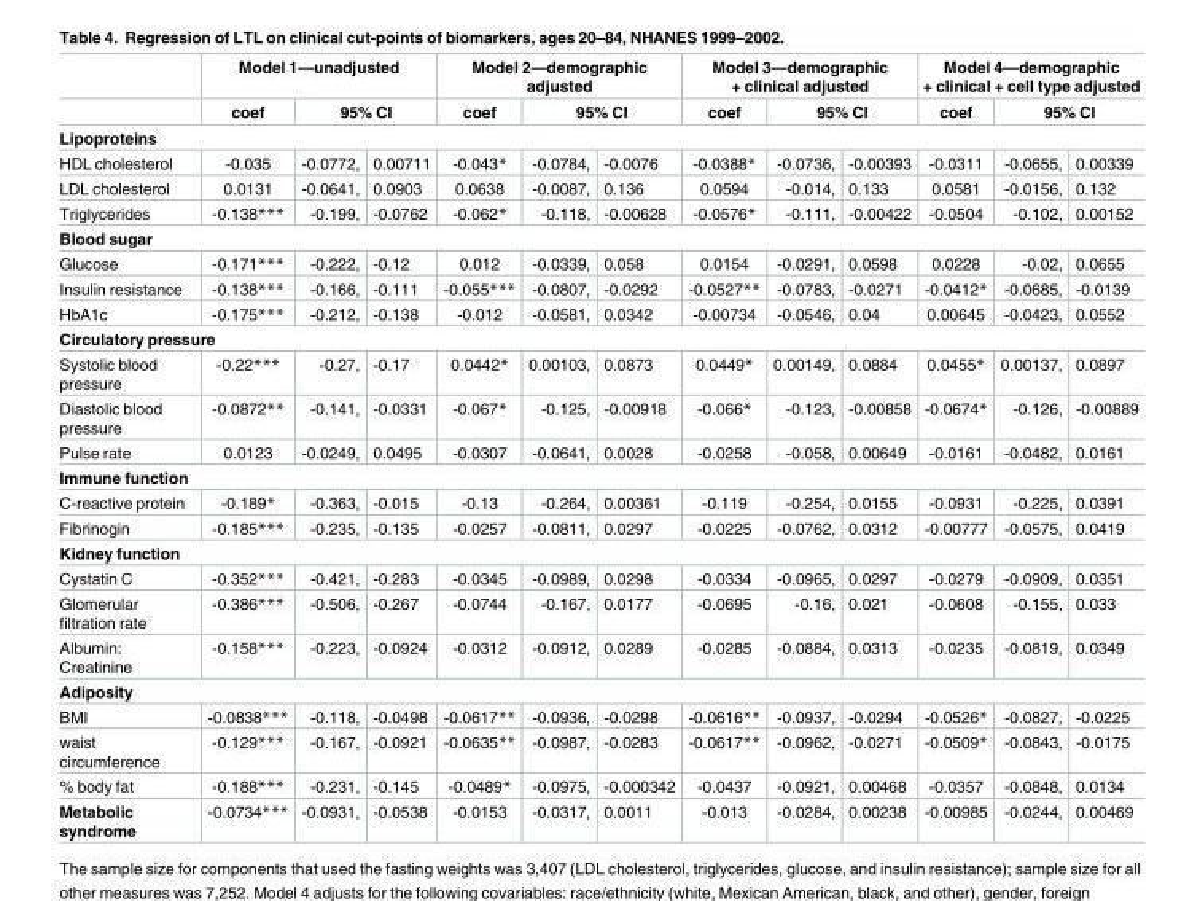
<table><thead><tr><td rowspan="2"></td><td colspan="3">Model 1—unadjusted</td><td colspan="3">Model 2—demographic adjusted</td><td colspan="3">Model 3—demographic + clinical adjusted</td><td colspan="3">Model 4—demographic + clinical + cell type adjusted</td></tr><tr><td>coef</td><td colspan="2">95% CI</td><td>coef</td><td colspan="2">95% CI</td><td>coef</td><td colspan="2">95% CI</td><td>coef</td><td colspan="2">95% CI</td></tr><tr><td colspan="13">Lipoproteins</td></tr><tr><td>HDL cholesterol</td><td>-0.035</td><td>-0.0772,</td><td>0.00711</td><td>-0.043*</td><td>-0.0784,</td><td>-0.0076</td><td>-0.0388*</td><td>-0.0736,</td><td>-0.00393</td><td>-0.0311</td><td>-0.0655,</td><td>0.00339</td></tr></thead><tbody><tr><td>LDL cholesterol</td><td>0.0131</td><td>-0.0641,</td><td>0.0903</td><td>0.0638</td><td>-0.0087,</td><td>0.136</td><td>0.0594</td><td>-0.014,</td><td>0.133</td><td>0.0581</td><td>-0.0156,</td><td>0.132</td></tr><tr><td>Triglycerides</td><td>-0.138***</td><td>-0.199,</td><td>-0.0762</td><td>-0.062*</td><td>-0.118,</td><td>-0.00628</td><td>-0.0576*</td><td>-0.111,</td><td>-0.00422</td><td>-0.0504</td><td>-0.102,</td><td>0.00152</td></tr><tr><td colspan="13">Blood sugar</td></tr><tr><td>Glucose</td><td>-0.171***</td><td>-0.222,</td><td>-0.12</td><td>0.012</td><td>-0.0339,</td><td>0.058</td><td>0.0154</td><td>-0.0291,</td><td>0.0598</td><td>0.0228</td><td>-0.02,</td><td>0.0655</td></tr><tr><td>Insulin resistance</td><td>-0.138***</td><td>-0.166,</td><td>-0.111</td><td>-0.055***</td><td>-0.0807,</td><td>-0.0292</td><td>-0.0527**</td><td>-0.0783,</td><td>-0.0271</td><td>-0.0412*</td><td>-0.0685,</td><td>-0.0139</td></tr><tr><td>HbA1c</td><td>-0.175***</td><td>-0.212,</td><td>-0.138</td><td>-0.012</td><td>-0.0581,</td><td>0.0342</td><td>-0.00734</td><td>-0.0546,</td><td>0.04</td><td>0.00645</td><td>-0.0423,</td><td>0.0552</td></tr><tr><td colspan="13">Circulatory pressure</td></tr><tr><td>Systolic blood pressure</td><td>-0.22***</td><td>-0.27,</td><td>-0.17</td><td>0.0442*</td><td>0.00103,</td><td>0.0873</td><td>0.0449*</td><td>0.00149,</td><td>0.0884</td><td>0.0455*</td><td>0.00137,</td><td>0.0897</td></tr><tr><td>Diastolic blood pressure</td><td>-0.0872**</td><td>-0.141,</td><td>-0.0331</td><td>-0.067*</td><td>-0.125,</td><td>-0.00918</td><td>-0.066*</td><td>-0.123,</td><td>-0.00858</td><td>-0.0674*</td><td>-0.126,</td><td>-0.00889</td></tr><tr><td>Pulse rate</td><td>0.0123</td><td>-0.0249,</td><td>0.0495</td><td>-0.0307</td><td>-0.0641,</td><td>0.0028</td><td>-0.0258</td><td>-0.058,</td><td>0.00649</td><td>-0.0161</td><td>-0.0482,</td><td>0.0161</td></tr><tr><td colspan="13">Immune function</td></tr><tr><td>C-reactive protein</td><td>-0.189*</td><td>-0.363,</td><td>-0.015</td><td>-0.13</td><td>-0.264,</td><td>0.00361</td><td>-0.119</td><td>-0.254,</td><td>0.0155</td><td>-0.0931</td><td>-0.225,</td><td>0.0391</td></tr><tr><td>Fibrinogin</td><td>-0.185***</td><td>-0.235,</td><td>-0.135</td><td>-0.0257</td><td>-0.0811,</td><td>0.0297</td><td>-0.0225</td><td>-0.0762,</td><td>0.0312</td><td>-0.00777</td><td>-0.0575,</td><td>0.0419</td></tr><tr><td colspan="13">Kidney function</td></tr><tr><td>Cystatin C</td><td>-0.352***</td><td>-0.421,</td><td>-0.283</td><td>-0.0345</td><td>-0.0989,</td><td>0.0298</td><td>-0.0334</td><td>-0.0965,</td><td>0.0297</td><td>-0.0279</td><td>-0.0909,</td><td>0.0351</td></tr><tr><td>Glomerular filtration rate</td><td>-0.386***</td><td>-0.506,</td><td>-0.267</td><td>-0.0744</td><td>-0.167,</td><td>0.0177</td><td>-0.0695</td><td>-0.16,</td><td>0.021</td><td>-0.0608</td><td>-0.155,</td><td>0.033</td></tr><tr><td>Albumin: Creatinine</td><td>-0.158***</td><td>-0.223,</td><td>-0.0924</td><td>-0.0312</td><td>-0.0912,</td><td>0.0289</td><td>-0.0285</td><td>-0.0884,</td><td>0.0313</td><td>-0.0235</td><td>-0.0819,</td><td>0.0349</td></tr><tr><td colspan="13">Adiposity</td></tr><tr><td>BMI</td><td>-0.0838***</td><td>-0.118,</td><td>-0.0498</td><td>-0.0617**</td><td>-0.0936,</td><td>-0.0298</td><td>-0.0616**</td><td>-0.0937,</td><td>-0.0294</td><td>-0.0526*</td><td>-0.0827,</td><td>-0.0225</td></tr><tr><td>waist circumference</td><td>-0.129***</td><td>-0.167,</td><td>-0.0921</td><td>-0.0635**</td><td>-0.0987,</td><td>-0.0283</td><td>-0.0617**</td><td>-0.0962,</td><td>-0.0271</td><td>-0.0509*</td><td>-0.0843,</td><td>-0.0175</td></tr><tr><td>% body fat</td><td>-0.188***</td><td>-0.231,</td><td>-0.145</td><td>-0.0489*</td><td>-0.0975,</td><td>-0.000342</td><td>-0.0437</td><td>-0.0921,</td><td>0.00468</td><td>-0.0357</td><td>-0.0848,</td><td>0.0134</td></tr><tr><td>Metabolic syndrome</td><td>-0.0734***</td><td>-0.0931,</td><td>-0.0538</td><td>-0.0153</td><td>-0.0317,</td><td>0.0011</td><td>-0.013</td><td>-0.0284,</td><td>0.00238</td><td>-0.00985</td><td>-0.0244,</td><td>0.00469</td></tr></tbody></table>